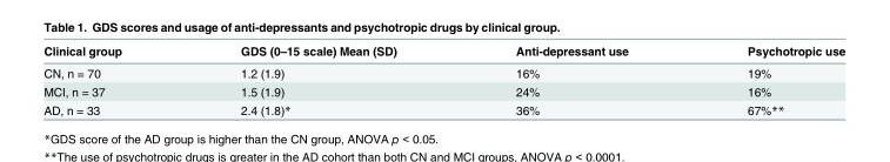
<table><thead><tr><td>Clinical group</td><td>GDS (0–15 scale) Mean (SD)</td><td>Anti-depressant use</td><td>Psychotropic use</td></tr></thead><tbody><tr><td>CN, n = 70</td><td>1.2 (1.9)</td><td>16%</td><td>19%</td></tr><tr><td>MCI, n = 37</td><td>1.5 (1.9)</td><td>24%</td><td>16%</td></tr><tr><td>AD, n = 33</td><td>2.4 (1.8)*</td><td>36%</td><td>67%**</td></tr></tbody></table>